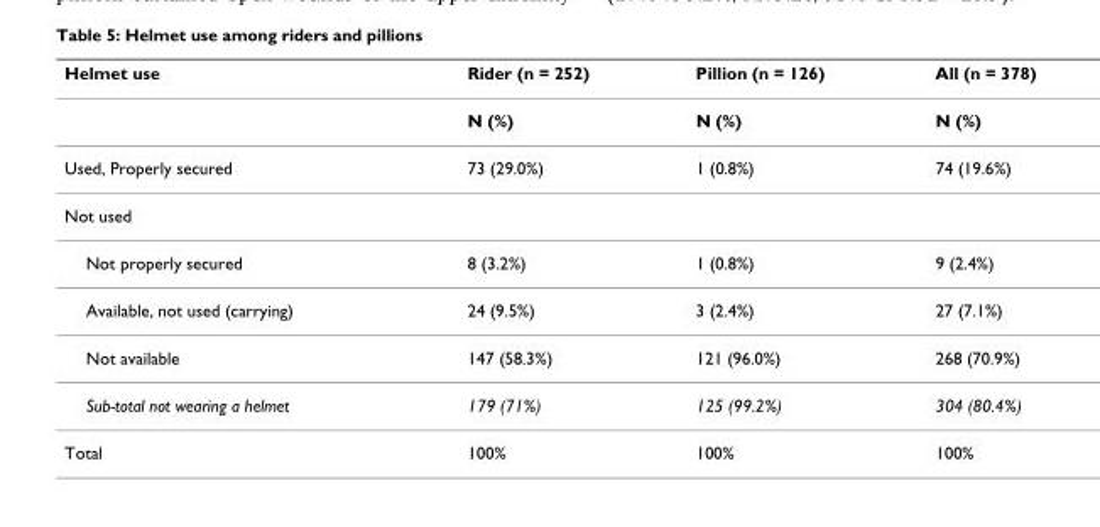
<table><thead><tr><td>Helmet use</td><td>Rider (n = 252)</td><td>Pillion (n = 126)</td><td>All (n = 378)</td></tr></thead><tbody><tr><td></td><td>N (%)</td><td>N (%)</td><td>N (%)</td></tr><tr><td>Used, Properly secured</td><td>73 (29.0%)</td><td>1 (0.8%)</td><td>74 (19.6%)</td></tr><tr><td colspan="4">Not used</td></tr><tr><td>Not properly secured</td><td>8 (3.2%)</td><td>1 (0.8%)</td><td>9 (2.4%)</td></tr><tr><td>Available, not used (carrying)</td><td>24 (9.5%)</td><td>3 (2.4%)</td><td>27 (7.1%)</td></tr><tr><td>Not available</td><td>147 (58.3%)</td><td>121 (96.0%)</td><td>268 (70.9%)</td></tr><tr><td>Sub-total not wearing a helmet</td><td>179 (71%)</td><td>125 (99.2%)</td><td>304 (80.4%)</td></tr><tr><td>Total</td><td>100%</td><td>100%</td><td>100%</td></tr></tbody></table>